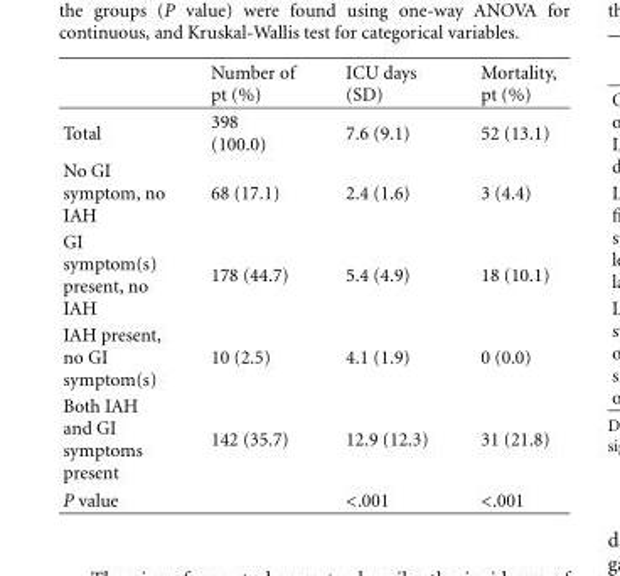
<table><thead><tr><td></td><td>Number of pt (%)</td><td>ICU days (SD)</td><td>Mortality, pt (%)</td></tr></thead><tbody><tr><td>Total</td><td>398 (100.0)</td><td>7.6 (9.1)</td><td>52 (13.1)</td></tr><tr><td>No GI symptom, no IAH</td><td>68 (17.1)</td><td>2.4 (1.6)</td><td>3 (4.4)</td></tr><tr><td>GI symptom(s) present, no IAH</td><td>178 (44.7)</td><td>5.4 (4.9)</td><td>18 (10.1)</td></tr><tr><td>IAH present, no GI symptom(s)</td><td>10 (2.5)</td><td>4.1 (1.9)</td><td>0 (0.0)</td></tr><tr><td>Both IAH and GI symptoms present</td><td>142 (35.7)</td><td>12.9 (12.3)</td><td>31 (21.8)</td></tr><tr><td>P value</td><td></td><td>&lt;.001</td><td>&lt;.001</td></tr></tbody></table>